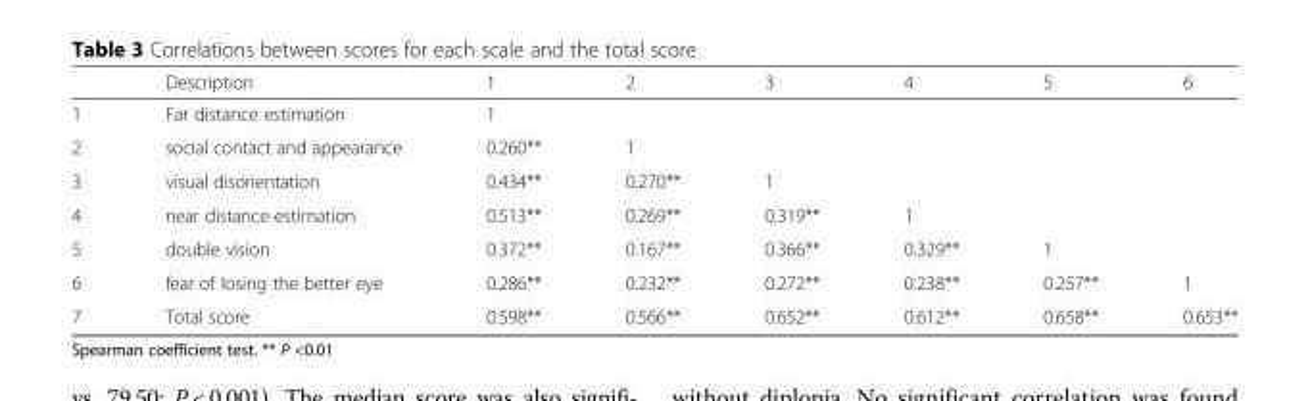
<table><thead><tr><td></td><td>Description</td><td>1</td><td>2</td><td>3</td><td>4</td><td>5</td><td>6</td></tr></thead><tbody><tr><td>1</td><td>Far distance estimation</td><td>1</td><td></td><td></td><td></td><td></td><td></td></tr><tr><td>2</td><td>social contact and appearance</td><td>0.260**</td><td>1</td><td></td><td></td><td></td><td></td></tr><tr><td>3</td><td>visual disorientation</td><td>0.434**</td><td>0.270**</td><td>1</td><td></td><td></td><td></td></tr><tr><td>4</td><td>near distance estimation</td><td>0.513**</td><td>0.269**</td><td>0.319**</td><td>1</td><td></td><td></td></tr><tr><td>5</td><td>double vision</td><td>0.372**</td><td>0.167**</td><td>0.366**</td><td>0.329**</td><td>1</td><td></td></tr><tr><td>6</td><td>fear of losing the better eye</td><td>0.286**</td><td>0.232**</td><td>0.272**</td><td>0.238**</td><td>0.257**</td><td>1</td></tr><tr><td>7</td><td>Total score</td><td>0.598**</td><td>0.566**</td><td>0.652**</td><td>0.612**</td><td>0.658**</td><td>0.653**</td></tr></tbody></table>